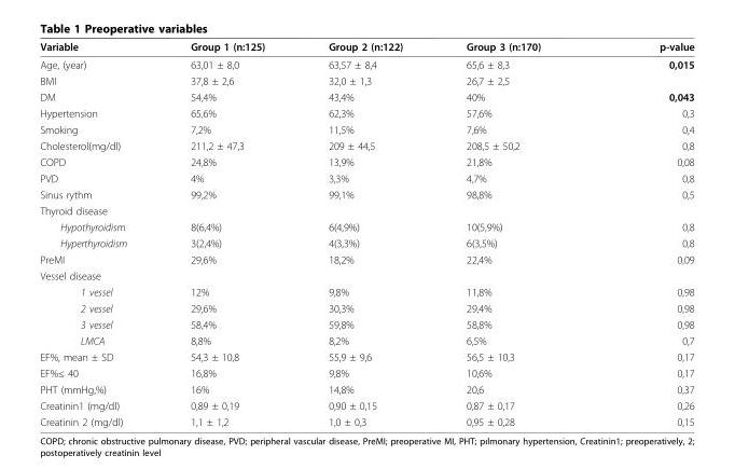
<table><thead><tr><td>Variable</td><td>Group 1 (n:125)</td><td>Group 2 (n:122)</td><td>Group 3 (n:170)</td><td>p-value</td></tr></thead><tbody><tr><td>Age, (year)</td><td>63,01 ± 8,0</td><td>63,57 ± 8,4</td><td>65,6 ± 8,3</td><td>0,015</td></tr><tr><td>BMI</td><td>37,8 ± 2,6</td><td>32,0 ± 1,3</td><td>26,7 ± 2,5</td><td></td></tr><tr><td>DM</td><td>54,4%</td><td>43,4%</td><td>40%</td><td>0,043</td></tr><tr><td>Hypertension</td><td>65,6%</td><td>62,3%</td><td>57,6%</td><td>0,3</td></tr><tr><td>Smoking</td><td>7,2%</td><td>11,5%</td><td>7,6%</td><td>0,4</td></tr><tr><td>Cholesterol(mg/dl)</td><td>211,2 ± 47,3</td><td>209 ± 44,5</td><td>208,5 ± 50,2</td><td>0,8</td></tr><tr><td>COPD</td><td>24,8%</td><td>13,9%</td><td>21,8%</td><td>0,08</td></tr><tr><td>PVD</td><td>4%</td><td>3,3%</td><td>4,7%</td><td>0,8</td></tr><tr><td>Sinus rythm</td><td>99,2%</td><td>99,1%</td><td>98,8%</td><td>0,5</td></tr><tr><td colspan="5">Thyroid disease</td></tr><tr><td>Hypothyroidism</td><td>8(6,4%)</td><td>6(4,9%)</td><td>10(5,9%)</td><td>0,8</td></tr><tr><td>Hyperthyroidism</td><td>3(2,4%)</td><td>4(3,3%)</td><td>6(3,5%)</td><td>0,8</td></tr><tr><td>PreMI</td><td>29,6%</td><td>18,2%</td><td>22,4%</td><td>0,09</td></tr><tr><td colspan="5">Vessel disease</td></tr><tr><td>1 vessel</td><td>12%</td><td>9,8%</td><td>11,8%</td><td>0,98</td></tr><tr><td>2 vessel</td><td>29,6%</td><td>30,3%</td><td>29,4%</td><td>0,98</td></tr><tr><td>3 vessel</td><td>58,4%</td><td>59,8%</td><td>58,8%</td><td>0,98</td></tr><tr><td>LMCA</td><td>8,8%</td><td>8,2%</td><td>6,5%</td><td>0,7</td></tr><tr><td>EF%, mean ± SD</td><td>54,3 ± 10,8</td><td>55,9 ± 9,6</td><td>56,5 ± 10,3</td><td>0,17</td></tr><tr><td>EF%≤ 40</td><td>16,8%</td><td>9,8%</td><td>10,6%</td><td>0,17</td></tr><tr><td>PHT (mmHg,%)</td><td>16%</td><td>14,8%</td><td>20,6</td><td>0,37</td></tr><tr><td>Creatinin1 (mg/dl)</td><td>0,89 ± 0,19</td><td>0,90 ± 0,15</td><td>0,87 ± 0,17</td><td>0,26</td></tr><tr><td>Creatinin 2 (mg/dl)</td><td>1,1 ± 1,2</td><td>1,0 ± 0,3</td><td>0,95 ± 0,28</td><td>0,15</td></tr></tbody></table>